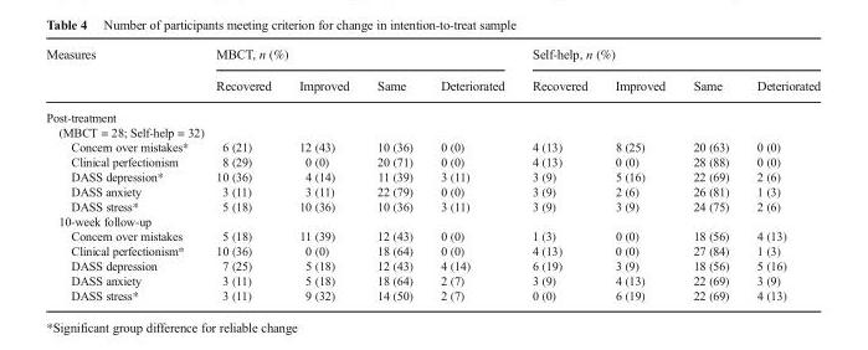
<table><thead><tr><td rowspan="2">Measures</td><td colspan="4">MBCT, n (%)</td><td colspan="4">Self-help, n (%)</td></tr><tr><td>Recovered</td><td>Improved</td><td>Same</td><td>Deteriorated</td><td>Recovered</td><td>Improved</td><td>Same</td><td>Deteriorated</td></tr></thead><tbody><tr><td colspan="9">Post-treatment</td></tr><tr><td colspan="9">(MBCT = 28; Self-help = 32)</td></tr><tr><td>Concern over mistakes*</td><td>6 (21)</td><td>12 (43)</td><td>10 (36)</td><td>0 (0)</td><td>4 (13)</td><td>8 (25)</td><td>20 (63)</td><td>0 (0)</td></tr><tr><td>Clinical perfectionism</td><td>8 (29)</td><td>0 (0)</td><td>20 (71)</td><td>0 (0)</td><td>4 (13)</td><td>0 (0)</td><td>28 (88)</td><td>0 (0)</td></tr><tr><td>DASS depression*</td><td>10 (36)</td><td>4 (14)</td><td>11 (39)</td><td>3 (11)</td><td>3 (9)</td><td>5 (16)</td><td>22 (69)</td><td>2 (6)</td></tr><tr><td>DASS anxiety</td><td>3 (11)</td><td>3 (11)</td><td>22 (79)</td><td>0 (0)</td><td>3 (9)</td><td>2 (6)</td><td>26 (81)</td><td>1 (3)</td></tr><tr><td>DASS stress*</td><td>5 (18)</td><td>10 (36)</td><td>10 (36)</td><td>3 (11)</td><td>3 (9)</td><td>3 (9)</td><td>24 (75)</td><td>2 (6)</td></tr><tr><td colspan="9">10-week follow-up</td></tr><tr><td>Concern over mistakes</td><td>5 (18)</td><td>11 (39)</td><td>12 (43)</td><td>0 (0)</td><td>1 (3)</td><td>0 (0)</td><td>18 (56)</td><td>4 (13)</td></tr><tr><td>Clinical perfectionism*</td><td>10 (36)</td><td>0 (0)</td><td>18 (64)</td><td>0 (0)</td><td>4 (13)</td><td>0 (0)</td><td>27 (84)</td><td>1 (3)</td></tr><tr><td>DASS depression</td><td>7 (25)</td><td>5 (18)</td><td>12 (43)</td><td>4 (14)</td><td>6 (19)</td><td>3 (9)</td><td>18 (56)</td><td>5 (16)</td></tr><tr><td>DASS anxiety</td><td>3 (11)</td><td>5 (18)</td><td>18 (64)</td><td>2 (7)</td><td>3 (9)</td><td>4 (13)</td><td>22 (69)</td><td>3 (9)</td></tr><tr><td>DASS stress*</td><td>3 (11)</td><td>9 (32)</td><td>14 (50)</td><td>2 (7)</td><td>0 (0)</td><td>6 (19)</td><td>22 (69)</td><td>4 (13)</td></tr></tbody></table>